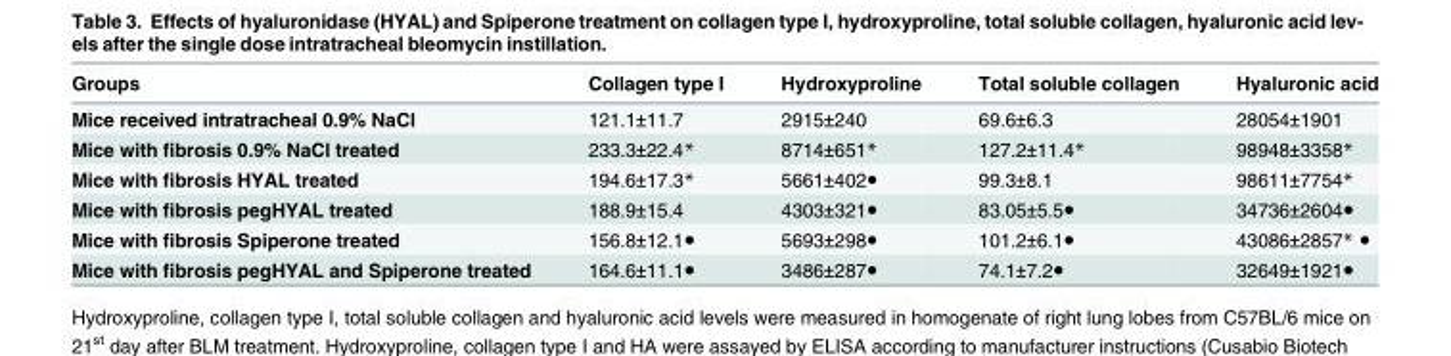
<table><thead><tr><td>Groups</td><td>Collagen type I</td><td>Hydroxyproline</td><td>Total soluble collagen</td><td>Hyaluronic acid</td></tr></thead><tbody><tr><td>Mice received intratracheal 0.9% NaCl</td><td>121.1±11.7</td><td>2915±240</td><td>69.6±6.3</td><td>28054±1901</td></tr><tr><td>Mice with fibrosis 0.9% NaCl treated</td><td>233.3±22.4*</td><td>8714±651*</td><td>127.2±11.4*</td><td>98948±3358*</td></tr><tr><td>Mice with fibrosis HYAL treated</td><td>194.6±17.3*</td><td>5661±402●</td><td>99.3±8.1</td><td>98611±7754*</td></tr><tr><td>Mice with fibrosis pegHYAL treated</td><td>188.9±15.4</td><td>4303±321●</td><td>83.05±5.5●</td><td>34736±2604●</td></tr><tr><td>Mice with fibrosis Spiperone treated</td><td>156.8±12.1●</td><td>5693±298●</td><td>101.2±6.1●</td><td>43086±2857* ●</td></tr><tr><td>Mice with fibrosis pegHYAL and Spiperone treated</td><td>164.6±11.1●</td><td>3486±287●</td><td>74.1±7.2●</td><td>32649±1921●</td></tr></tbody></table>